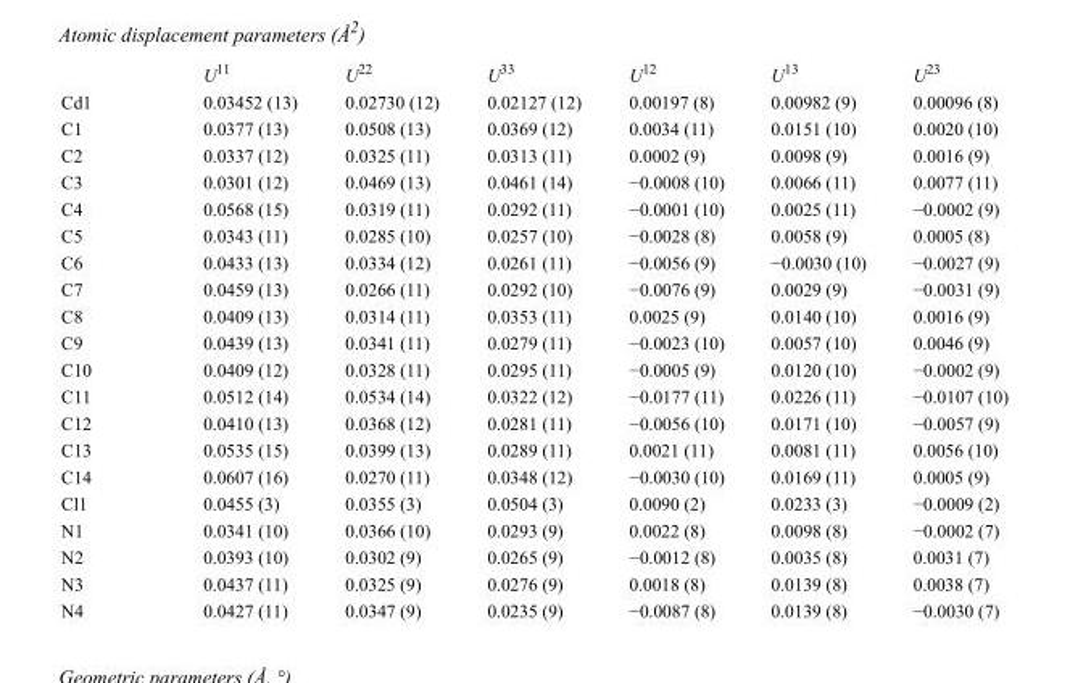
<table><thead><tr><td></td><td>U<sup>11</sup></td><td>U<sup>22</sup></td><td>U<sup>33</sup></td><td>U<sup>12</sup></td><td>U<sup>13</sup></td><td>U<sup>23</sup></td></tr></thead><tbody><tr><td>Cd1</td><td>0.03452 (13)</td><td>0.02730 (12)</td><td>0.02127 (12)</td><td>0.00197 (8)</td><td>0.00982 (9)</td><td>0.00096 (8)</td></tr><tr><td>C1</td><td>0.0377 (13)</td><td>0.0508 (13)</td><td>0.0369 (12)</td><td>0.0034 (11)</td><td>0.0151 (10)</td><td>0.0020 (10)</td></tr><tr><td>C2</td><td>0.0337 (12)</td><td>0.0325 (11)</td><td>0.0313 (11)</td><td>0.0002 (9)</td><td>0.0098 (9)</td><td>0.0016 (9)</td></tr><tr><td>C3</td><td>0.0301 (12)</td><td>0.0469 (13)</td><td>0.0461 (14)</td><td>−0.0008 (10)</td><td>0.0066 (11)</td><td>0.0077 (11)</td></tr><tr><td>C4</td><td>0.0568 (15)</td><td>0.0319 (11)</td><td>0.0292 (11)</td><td>−0.0001 (10)</td><td>0.0025 (11)</td><td>−0.0002 (9)</td></tr><tr><td>C5</td><td>0.0343 (11)</td><td>0.0285 (10)</td><td>0.0257 (10)</td><td>−0.0028 (8)</td><td>0.0058 (9)</td><td>0.0005 (8)</td></tr><tr><td>C6</td><td>0.0433 (13)</td><td>0.0334 (12)</td><td>0.0261 (11)</td><td>−0.0056 (9)</td><td>−0.0030 (10)</td><td>−0.0027 (9)</td></tr><tr><td>C7</td><td>0.0459 (13)</td><td>0.0266 (11)</td><td>0.0292 (10)</td><td>−0.0076 (9)</td><td>0.0029 (9)</td><td>−0.0031 (9)</td></tr><tr><td>C8</td><td>0.0409 (13)</td><td>0.0314 (11)</td><td>0.0353 (11)</td><td>0.0025 (9)</td><td>0.0140 (10)</td><td>0.0016 (9)</td></tr><tr><td>C9</td><td>0.0439 (13)</td><td>0.0341 (11)</td><td>0.0279 (11)</td><td>−0.0023 (10)</td><td>0.0057 (10)</td><td>0.0046 (9)</td></tr><tr><td>C10</td><td>0.0409 (12)</td><td>0.0328 (11)</td><td>0.0295 (11)</td><td>−0.0005 (9)</td><td>0.0120 (10)</td><td>−0.0002 (9)</td></tr><tr><td>C11</td><td>0.0512 (14)</td><td>0.0534 (14)</td><td>0.0322 (12)</td><td>−0.0177 (11)</td><td>0.0226 (11)</td><td>−0.0107 (10)</td></tr><tr><td>C12</td><td>0.0410 (13)</td><td>0.0368 (12)</td><td>0.0281 (11)</td><td>−0.0056 (10)</td><td>0.0171 (10)</td><td>−0.0057 (9)</td></tr><tr><td>C13</td><td>0.0535 (15)</td><td>0.0399 (13)</td><td>0.0289 (11)</td><td>0.0021 (11)</td><td>0.0081 (11)</td><td>0.0056 (10)</td></tr><tr><td>C14</td><td>0.0607 (16)</td><td>0.0270 (11)</td><td>0.0348 (12)</td><td>−0.0030 (10)</td><td>0.0169 (11)</td><td>0.0005 (9)</td></tr><tr><td>Cl1</td><td>0.0455 (3)</td><td>0.0355 (3)</td><td>0.0504 (3)</td><td>0.0090 (2)</td><td>0.0233 (3)</td><td>−0.0009 (2)</td></tr><tr><td>N1</td><td>0.0341 (10)</td><td>0.0366 (10)</td><td>0.0293 (9)</td><td>0.0022 (8)</td><td>0.0098 (8)</td><td>−0.0002 (7)</td></tr><tr><td>N2</td><td>0.0393 (10)</td><td>0.0302 (9)</td><td>0.0265 (9)</td><td>−0.0012 (8)</td><td>0.0035 (8)</td><td>0.0031 (7)</td></tr><tr><td>N3</td><td>0.0437 (11)</td><td>0.0325 (9)</td><td>0.0276 (9)</td><td>0.0018 (8)</td><td>0.0139 (8)</td><td>0.0038 (7)</td></tr><tr><td>N4</td><td>0.0427 (11)</td><td>0.0347 (9)</td><td>0.0235 (9)</td><td>−0.0087 (8)</td><td>0.0139 (8)</td><td>−0.0030 (7)</td></tr></tbody></table>